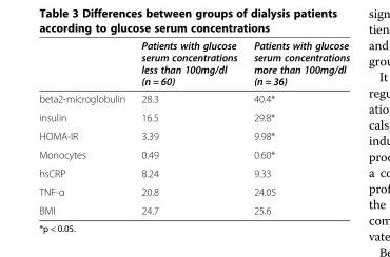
<table><thead><tr><td></td><td>Patients with glucose serum concentrations less than 100mg/dl (n = 60)</td><td>Patients with glucose serum concentrations more than 100mg/dl (n = 36)</td></tr></thead><tbody><tr><td>beta2-microglobulin</td><td>28.3</td><td>40.4*</td></tr><tr><td>insulin</td><td>16.5</td><td>29.8*</td></tr><tr><td>ΗΟΜΑ-ΙR</td><td>3.39</td><td>9.98*</td></tr><tr><td>Monocytes</td><td>0.49</td><td>0.60*</td></tr><tr><td>hsCRP</td><td>8.24</td><td>9.33</td></tr><tr><td>TNF-α</td><td>20.8</td><td>24.05</td></tr><tr><td>BMI</td><td>24.7</td><td>25.6</td></tr></tbody></table>